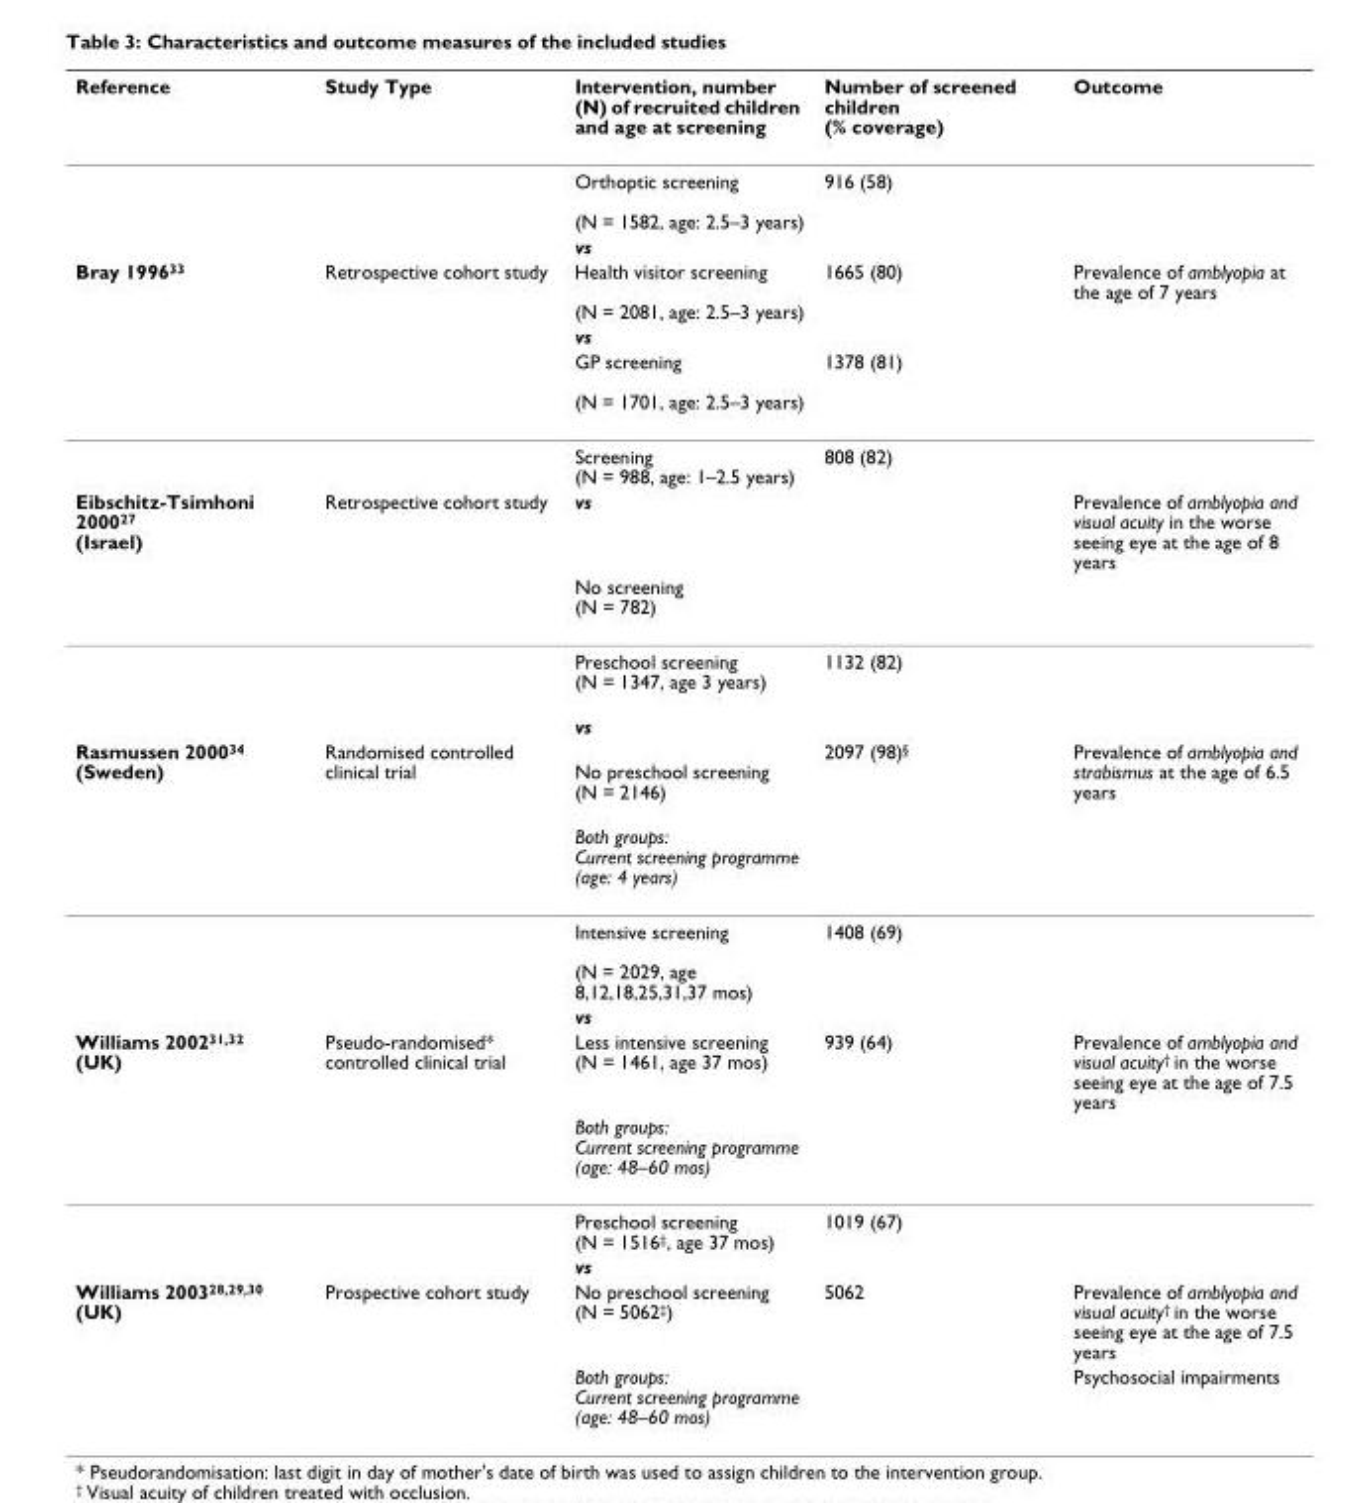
<table><thead><tr><td>Reference</td><td>Study Type</td><td>Intervention, number (N) of recruited children and age at screening</td><td>Number of screened children (% coverage)</td><td>Outcome</td></tr></thead><tbody><tr><td></td><td></td><td>Orthoptic screening (N = 1582, age: 2.5–3 years)</td><td>916 (58)</td><td></td></tr><tr><td></td><td></td><td>vs</td><td></td><td></td></tr><tr><td rowspan="4">Bray 1996<sup>33</sup></td><td>Retrospective cohort study</td><td>Health visitor screening (N = 2081, age: 2.5–3 years)</td><td>1665 (80)</td><td>Prevalence of amblyopia at the age of 7 years</td></tr><tr><td></td><td>vs</td><td></td><td></td></tr><tr><td></td><td>GP screening (N = 1701, age: 2.5–3 years)</td><td>1378 (81)</td><td></td></tr><tr><td></td><td>Screening (N = 988, age: 1–2.5 years)</td><td>808 (82)</td><td></td></tr><tr><td rowspan="4">Eibschitz-Tsimhoni 2000<sup>27</sup> (Israel)</td><td>Retrospective cohort study</td><td>vs</td><td></td><td>Prevalence of amblyopia and visual acuity in the worse seeing eye at the age of 8 years</td></tr><tr><td></td><td>No screening (N = 782)</td><td></td><td></td></tr><tr><td></td><td>Preschool screening (N = 1347, age 3 years)</td><td>1132 (82)</td><td></td></tr><tr><td></td><td>vs</td><td></td><td></td></tr><tr><td rowspan="4">Rasmussen 2000<sup>34</sup> (Sweden)</td><td>Randomised controlled clinical trial</td><td>No preschool screening (N = 2146)</td><td>2097 (98)<sup>§</sup></td><td>Prevalence of amblyopia and strabismus at the age of 6.5 years</td></tr><tr><td></td><td>Both groups: Current screening programme (age: 4 years)</td><td></td><td></td></tr><tr><td></td><td>Intensive screening (N = 2029, age 8,12,18,25,31,37 mos)</td><td>1408 (69)</td><td></td></tr><tr><td></td><td>vs</td><td></td><td></td></tr><tr><td rowspan="4">Williams 2002<sup>31,32</sup> (UK)</td><td>Pseudo-randomised* controlled clinical trial</td><td>Less intensive screening (N = 1461, age 37 mos)</td><td>939 (64)</td><td>Prevalence of amblyopia and visual acuity<sup>†</sup> in the worse seeing eye at the age of 7.5 years</td></tr><tr><td></td><td>Both groups: Current screening programme (age: 48–60 mos)</td><td></td><td></td></tr><tr><td></td><td>Preschool screening (N = 1516<sup>‡</sup>, age 37 mos)</td><td>1019 (67)</td><td></td></tr><tr><td></td><td>vs</td><td></td><td></td></tr><tr><td rowspan="2">Williams 2003<sup>28,29,30</sup> (UK)</td><td>Prospective cohort study</td><td>No preschool screening (N = 5062<sup>‡</sup>)</td><td>5062</td><td>Prevalence of amblyopia and visual acuity<sup>†</sup> in the worse seeing eye at the age of 7.5 years</td></tr><tr><td></td><td>Both groups: Current screening programme (age: 48–60 mos)</td><td></td><td>Psychosocial impairments</td></tr></tbody></table>